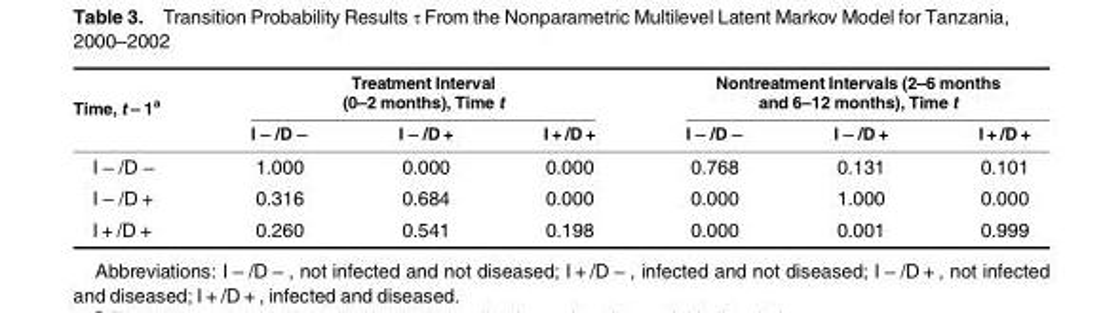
<table><thead><tr><td rowspan="2">Time, t – 1<sup>a</sup></td><td colspan="3">Treatment Interval (0–2 months), Time t</td><td colspan="3">Nontreatment Intervals (2–6 months and 6–12 months), Time t</td></tr><tr><td>I − /D −</td><td>I − /D +</td><td>I + /D +</td><td>I − /D −</td><td>I − /D +</td><td>I + /D +</td></tr></thead><tbody><tr><td>I − /D −</td><td>1.000</td><td>0.000</td><td>0.000</td><td>0.768</td><td>0.131</td><td>0.101</td></tr><tr><td>I − /D +</td><td>0.316</td><td>0.684</td><td>0.000</td><td>0.000</td><td>1.000</td><td>0.000</td></tr><tr><td>I + /D +</td><td>0.260</td><td>0.541</td><td>0.198</td><td>0.000</td><td>0.001</td><td>0.999</td></tr></tbody></table>